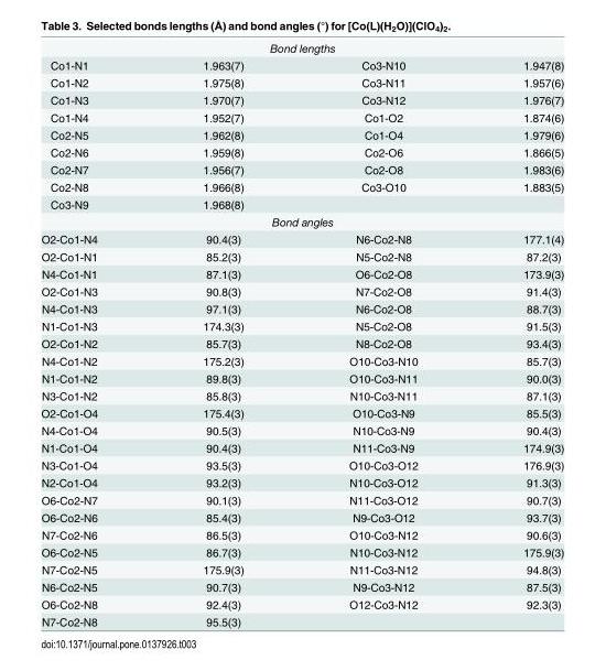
<table><tbody><tr><td colspan="4">Bond lengths</td></tr><tr><td>Co1-N1</td><td>1.963(7)</td><td>Co3-N10</td><td>1.947(8)</td></tr><tr><td>Co1-N2</td><td>1.975(8)</td><td>Co3-N11</td><td>1.957(6)</td></tr><tr><td>Co1-N3</td><td>1.970(7)</td><td>Co3-N12</td><td>1.976(7)</td></tr><tr><td>Co1-N4</td><td>1.952(7)</td><td>Co1-O2</td><td>1.874(6)</td></tr><tr><td>Co2-N5</td><td>1.962(8)</td><td>Co1-O4</td><td>1.979(6)</td></tr><tr><td>Co2-N6</td><td>1.959(8)</td><td>Co2-O6</td><td>1.866(5)</td></tr><tr><td>Co2-N7</td><td>1.956(7)</td><td>Co2-O8</td><td>1.983(6)</td></tr><tr><td>Co2-N8</td><td>1.966(8)</td><td>Co3-O10</td><td>1.883(5)</td></tr><tr><td>Co3-N9</td><td>1.968(8)</td><td></td><td></td></tr><tr><td colspan="4">Bond angles</td></tr><tr><td>O2-Co1-N4</td><td>90.4(3)</td><td>N6-Co2-N8</td><td>177.1(4)</td></tr><tr><td>O2-Co1-N1</td><td>85.2(3)</td><td>N5-Co2-N8</td><td>87.2(3)</td></tr><tr><td>N4-Co1-N1</td><td>87.1(3)</td><td>O6-Co2-O8</td><td>173.9(3)</td></tr><tr><td>O2-Co1-N3</td><td>90.8(3)</td><td>N7-Co2-O8</td><td>91.4(3)</td></tr><tr><td>N4-Co1-N3</td><td>97.1(3)</td><td>N6-Co2-O8</td><td>88.7(3)</td></tr><tr><td>N1-Co1-N3</td><td>174.3(3)</td><td>N5-Co2-O8</td><td>91.5(3)</td></tr><tr><td>O2-Co1-N2</td><td>85.7(3)</td><td>N8-Co2-O8</td><td>93.4(3)</td></tr><tr><td>N4-Co1-N2</td><td>175.2(3)</td><td>O10-Co3-N10</td><td>85.7(3)</td></tr><tr><td>N1-Co1-N2</td><td>89.8(3)</td><td>O10-Co3-N11</td><td>90.0(3)</td></tr><tr><td>N3-Co1-N2</td><td>85.8(3)</td><td>N10-Co3-N11</td><td>87.1(3)</td></tr><tr><td>O2-Co1-O4</td><td>175.4(3)</td><td>O10-Co3-N9</td><td>85.5(3)</td></tr><tr><td>N4-Co1-O4</td><td>90.5(3)</td><td>N10-Co3-N9</td><td>90.4(3)</td></tr><tr><td>N1-Co1-O4</td><td>90.4(3)</td><td>N11-Co3-N9</td><td>174.9(3)</td></tr><tr><td>N3-Co1-O4</td><td>93.5(3)</td><td>O10-Co3-O12</td><td>176.9(3)</td></tr><tr><td>N2-Co1-O4</td><td>93.2(3)</td><td>N10-Co3-O12</td><td>91.3(3)</td></tr><tr><td>O6-Co2-N7</td><td>90.1(3)</td><td>N11-Co3-O12</td><td>90.7(3)</td></tr><tr><td>O6-Co2-N6</td><td>85.4(3)</td><td>N9-Co3-O12</td><td>93.7(3)</td></tr><tr><td>N7-Co2-N6</td><td>86.5(3)</td><td>O10-Co3-N12</td><td>90.6(3)</td></tr><tr><td>O6-Co2-N5</td><td>86.7(3)</td><td>N10-Co3-N12</td><td>175.9(3)</td></tr><tr><td>N7-Co2-N5</td><td>175.9(3)</td><td>N11-Co3-N12</td><td>94.8(3)</td></tr><tr><td>N6-Co2-N5</td><td>90.7(3)</td><td>N9-Co3-N12</td><td>87.5(3)</td></tr><tr><td>O6-Co2-N8</td><td>92.4(3)</td><td>O12-Co3-N12</td><td>92.3(3)</td></tr><tr><td>N7-Co2-N8</td><td>95.5(3)</td><td></td><td></td></tr></tbody></table>